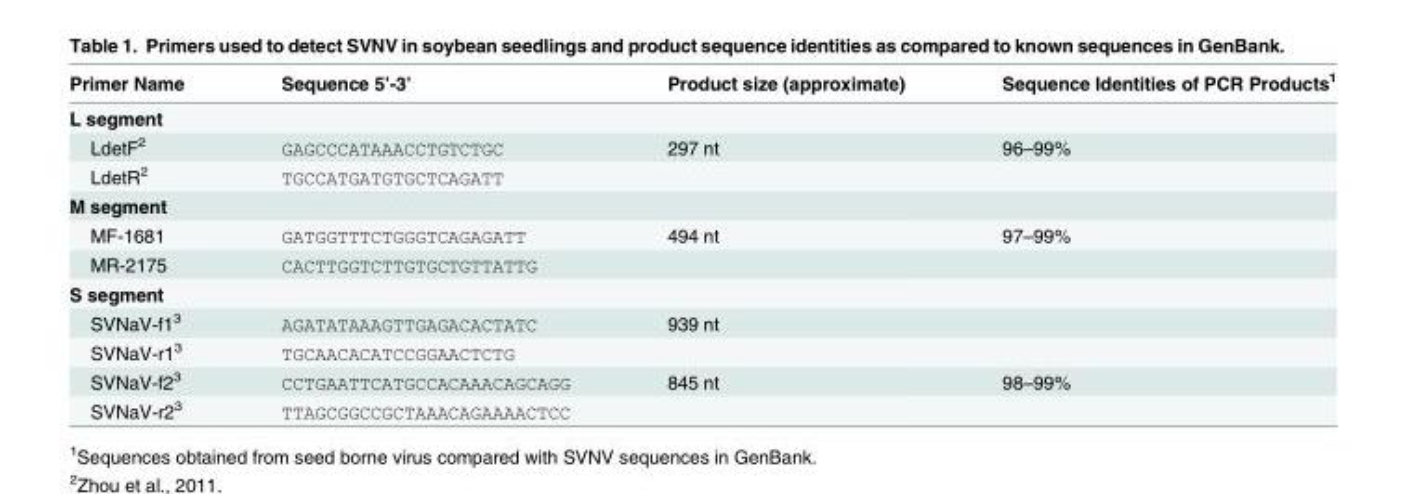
<table><thead><tr><td>Primer Name</td><td>Sequence 5’-3’</td><td>Product size (approximate)</td><td>Sequence Identities of PCR Products<sup>1</sup></td></tr></thead><tbody><tr><td colspan="4">L segment</td></tr><tr><td>LdetF<sup>2</sup></td><td>GAGCCCATAAACCTGTCTGC</td><td>297 nt</td><td>96–99%</td></tr><tr><td>LdetR<sup>2</sup></td><td>TGCCATGATGTGCTCAGATT</td><td></td><td></td></tr><tr><td colspan="4">M segment</td></tr><tr><td>MF-1681</td><td>GATGGTTTCTGGGTCAGAGATT</td><td>494 nt</td><td>97–99%</td></tr><tr><td>MR-2175</td><td>CACTTGGTCTTGTGCTGTTATTG</td><td></td><td></td></tr><tr><td colspan="4">S segment</td></tr><tr><td>SVNaV-f1<sup>3</sup></td><td>AGATATAAAGTTGAGACACTATC</td><td>939 nt</td><td></td></tr><tr><td>SVNaV-r1<sup>3</sup></td><td>TGCAACACATCCGGAACTCTG</td><td></td><td></td></tr><tr><td>SVNaV-f2<sup>3</sup></td><td>CCTGAATTCATGCCACAAACAGCAGG</td><td>845 nt</td><td>98–99%</td></tr><tr><td>SVNaV-r2<sup>3</sup></td><td>TTAGCGGCCGCTAAACAGAAAACTCC</td><td></td><td></td></tr></tbody></table>